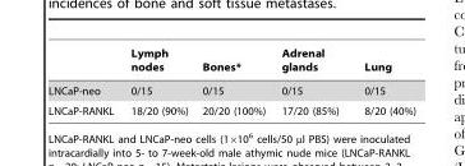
<table><thead><tr><td></td><td>Lymph nodes</td><td>Bones*</td><td>Adrenal glands</td><td>Lung</td></tr></thead><tbody><tr><td>LNCaP-neo</td><td>0/15</td><td>0/15</td><td>0/15</td><td>0/15</td></tr><tr><td>LNCaP-RANKL</td><td>18/20 (90%)</td><td>20/20 (100%)</td><td>17/20 (85%)</td><td>8/20 (40%)</td></tr></tbody></table>